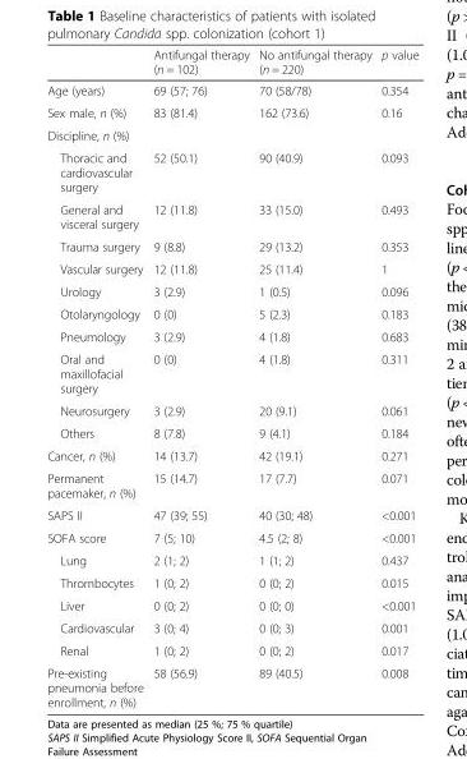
<table><thead><tr><td></td><td>Antifungal therapy (n = 102)</td><td>No antifungal therapy (n = 220)</td><td>p value</td></tr></thead><tbody><tr><td>Age (years)</td><td>69 (57; 76)</td><td>70 (58/78)</td><td>0.354</td></tr><tr><td>Sex male, n (%)</td><td>83 (81.4)</td><td>162 (73.6)</td><td>0.16</td></tr><tr><td colspan="4">Discipline, n (%)</td></tr><tr><td>Thoracic and cardiovascular surgery</td><td>52 (50.1)</td><td>90 (40.9)</td><td>0.093</td></tr><tr><td>General and visceral surgery</td><td>12 (11.8)</td><td>33 (15.0)</td><td>0.493</td></tr><tr><td>Trauma surgery</td><td>9 (8.8)</td><td>29 (13.2)</td><td>0.353</td></tr><tr><td>Vascular surgery</td><td>12 (11.8)</td><td>25 (11.4)</td><td>1</td></tr><tr><td>Urology</td><td>3 (2.9)</td><td>1 (0.5)</td><td>0.096</td></tr><tr><td>Otolaryngology</td><td>0 (0)</td><td>5 (2.3)</td><td>0.183</td></tr><tr><td>Pneumology</td><td>3 (2.9)</td><td>4 (1.8)</td><td>0.683</td></tr><tr><td>Oral and maxillofacial surgery</td><td>0 (0)</td><td>4 (1.8)</td><td>0.311</td></tr><tr><td>Neurosurgery</td><td>3 (2.9)</td><td>20 (9.1)</td><td>0.061</td></tr><tr><td>Others</td><td>8 (7.8)</td><td>9 (4.1)</td><td>0.184</td></tr><tr><td>Cancer, n (%)</td><td>14 (13.7)</td><td>42 (19.1)</td><td>0.271</td></tr><tr><td>Permanent pacemaker, n (%)</td><td>15 (14.7)</td><td>17 (7.7)</td><td>0.071</td></tr><tr><td>SAPS II</td><td>47 (39; 55)</td><td>40 (30; 48)</td><td>&lt;0.001</td></tr><tr><td>SOFA score</td><td>7 (5; 10)</td><td>4.5 (2; 8)</td><td>&lt;0.001</td></tr><tr><td>Lung</td><td>2 (1; 2)</td><td>1 (1; 2)</td><td>0.437</td></tr><tr><td>Thrombocytes</td><td>1 (0; 2)</td><td>0 (0; 2)</td><td>0.015</td></tr><tr><td>Liver</td><td>0 (0; 2)</td><td>0 (0; 0)</td><td>&lt;0.001</td></tr><tr><td>Cardiovascular</td><td>3 (0; 4)</td><td>0 (0; 3)</td><td>0.001</td></tr><tr><td>Renal</td><td>1 (0; 2)</td><td>0 (0; 2)</td><td>0.017</td></tr><tr><td>Pre-existing pneumonia before enrollment, n (%)</td><td>58 (56.9)</td><td>89 (40.5)</td><td>0.008</td></tr></tbody></table>